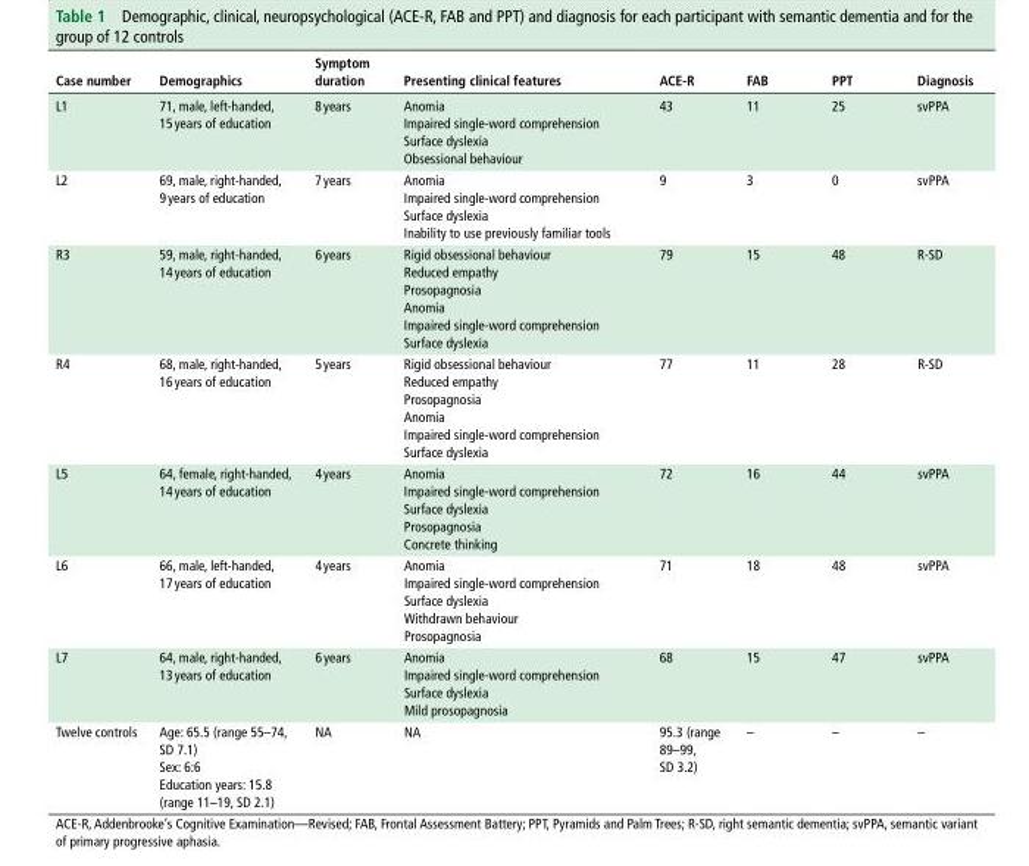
<table><thead><tr><td>Case number</td><td>demographics</td><td>symptom duration</td><td>Presenting clinical features</td><td>ACe-r</td><td>FAb</td><td>PPT</td><td>diagnosis</td></tr></thead><tbody><tr><td>L1</td><td>71, male, left-handed, 15 years of education</td><td>8 years</td><td>Anomia Impaired single-word comprehension Surface dyslexia Obsessional behaviour</td><td>43</td><td>11</td><td>25</td><td>svPPA</td></tr><tr><td>L2</td><td>69, male, right-handed, 9 years of education</td><td>7 years</td><td>Anomia Impaired single-word comprehension Surface dyslexia Inability to use previously familiar tools</td><td>9</td><td>3</td><td>0</td><td>svPPA</td></tr><tr><td>R3</td><td>59, male, right-handed, 14 years of education</td><td>6 years</td><td>Rigid obsessional behaviour Reduced empathy Prosopagnosia Anomia Impaired single-word comprehension Surface dyslexia</td><td>79</td><td>15</td><td>48</td><td>R-SD</td></tr><tr><td>R4</td><td>68, male, right-handed, 16 years of education</td><td>5 years</td><td>Rigid obsessional behaviour Reduced empathy Prosopagnosia Anomia Impaired single-word comprehension Surface dyslexia</td><td>77</td><td>11</td><td>28</td><td>R-SD</td></tr><tr><td>L5</td><td>64, female, right-handed, 14 years of education</td><td>4 years</td><td>Anomia Impaired single-word comprehension Surface dyslexia Prosopagnosia Concrete thinking</td><td>72</td><td>16</td><td>44</td><td>svPPA</td></tr><tr><td>L6</td><td>66, male, left-handed, 17 years of education</td><td>4 years</td><td>Anomia Impaired single-word comprehension Surface dyslexia Withdrawn behaviour Prosopagnosia</td><td>71</td><td>18</td><td>48</td><td>svPPA</td></tr><tr><td>L7</td><td>64, male, right-handed, 13 years of education</td><td>6 years</td><td>Anomia Impaired single-word comprehension Surface dyslexia Mild prosopagnosia</td><td>68</td><td>15</td><td>47</td><td>svPPA</td></tr><tr><td>Twelve controls</td><td>Age: 65.5 (range 55–74, SD 7.1) Sex: 6:6 Education years: 15.8 (range 11–19, SD 2.1)</td><td>NA</td><td>NA</td><td>95.3 (range 89–99, SD 3.2)</td><td>–</td><td>–</td><td>–</td></tr></tbody></table>